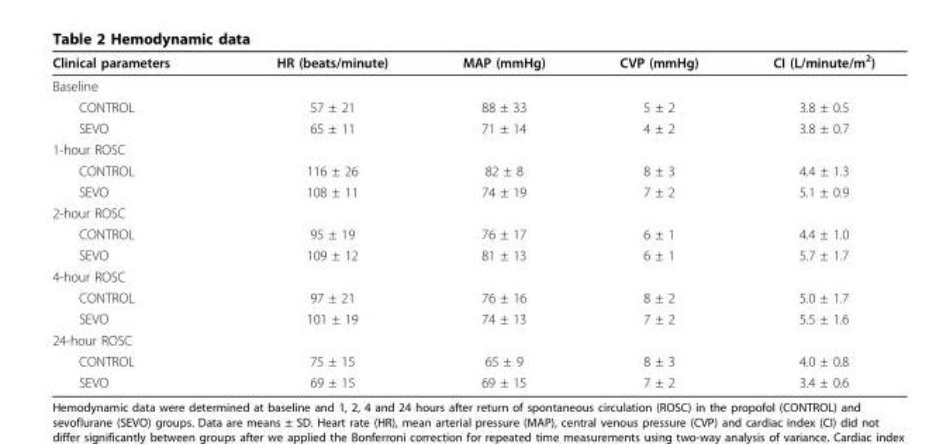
<table><thead><tr><td>Clinical parameters</td><td>HR (beats/minute)</td><td>MAP (mmHg)</td><td>CVP (mmHg)</td><td>CI (L/minute/m<sup>2</sup>)</td></tr></thead><tbody><tr><td colspan="5">Baseline</td></tr><tr><td>CONTROL</td><td>57 ± 21</td><td>88 ± 33</td><td>5 ± 2</td><td>3.8 ± 0.5</td></tr><tr><td>SEVO</td><td>65 ± 11</td><td>71 ± 14</td><td>4 ± 2</td><td>3.8 ± 0.7</td></tr><tr><td colspan="5">1-hour ROSC</td></tr><tr><td>CONTROL</td><td>116 ± 26</td><td>82 ± 8</td><td>8 ± 3</td><td>4.4 ± 1.3</td></tr><tr><td>SEVO</td><td>108 ± 11</td><td>74 ± 19</td><td>7 ± 2</td><td>5.1 ± 0.9</td></tr><tr><td colspan="5">2-hour ROSC</td></tr><tr><td>CONTROL</td><td>95 ± 19</td><td>76 ± 17</td><td>6 ± 1</td><td>4.4 ± 1.0</td></tr><tr><td>SEVO</td><td>109 ± 12</td><td>81 ± 13</td><td>6 ± 1</td><td>5.7 ± 1.7</td></tr><tr><td colspan="5">4-hour ROSC</td></tr><tr><td>CONTROL</td><td>97 ± 21</td><td>76 ± 16</td><td>8 ± 2</td><td>5.0 ± 1.7</td></tr><tr><td>SEVO</td><td>101 ± 19</td><td>74 ± 13</td><td>7 ± 2</td><td>5.5 ± 1.6</td></tr><tr><td colspan="5">24-hour ROSC</td></tr><tr><td>CONTROL</td><td>75 ± 15</td><td>65 ± 9</td><td>8 ± 3</td><td>4.0 ± 0.8</td></tr><tr><td>SEVO</td><td>69 ± 15</td><td>69 ± 15</td><td>7 ± 2</td><td>3.4 ± 0.6</td></tr></tbody></table>